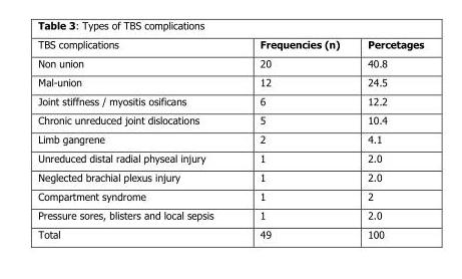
<table><thead><tr><td>TBS complications</td><td>Frequencies (n)</td><td>Percetages</td></tr></thead><tbody><tr><td>Non union</td><td>20</td><td>40.8</td></tr><tr><td>Mal-union</td><td>12</td><td>24.5</td></tr><tr><td>Joint stiffness / myositis osificans</td><td>6</td><td>12.2</td></tr><tr><td>Chronic unreduced joint dislocations</td><td>5</td><td>10.4</td></tr><tr><td>Limb gangrene</td><td>2</td><td>4.1</td></tr><tr><td>Unreduced distal radial physeal injury</td><td>1</td><td>2.0</td></tr><tr><td>Neglected brachial plexus injury</td><td>1</td><td>2.0</td></tr><tr><td>Compartment syndrome</td><td>1</td><td>2</td></tr><tr><td>Pressure sores, blisters and local sepsis</td><td>1</td><td>2.0</td></tr><tr><td>Total</td><td>49</td><td>100</td></tr></tbody></table>